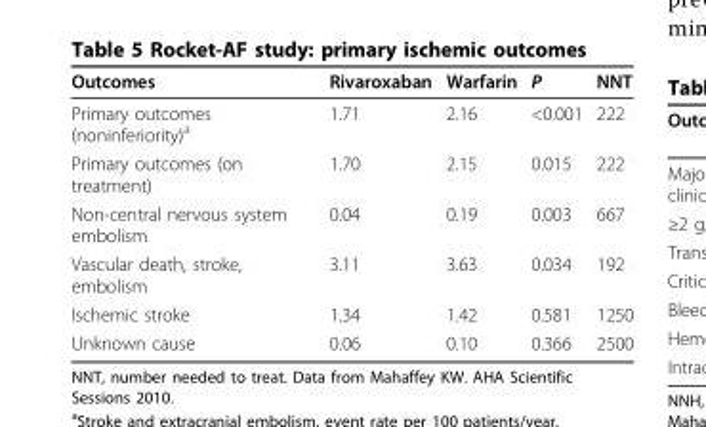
<table><thead><tr><td>Outcomes</td><td>Rivaroxaban</td><td>Warfarin</td><td>P</td><td>NNT</td></tr></thead><tbody><tr><td>Primary outcomes (noninferiority)<sup>a</sup></td><td>1.71</td><td>2.16</td><td>&lt;0.001</td><td>222</td></tr><tr><td>Primary outcomes (on treatment)</td><td>1.70</td><td>2.15</td><td>0.015</td><td>222</td></tr><tr><td>Non-central nervous system embolism</td><td>0.04</td><td>0.19</td><td>0.003</td><td>667</td></tr><tr><td>Vascular death, stroke, embolism</td><td>3.11</td><td>3.63</td><td>0.034</td><td>192</td></tr><tr><td>Ischemic stroke</td><td>1.34</td><td>1.42</td><td>0.581</td><td>1250</td></tr><tr><td>Unknown cause</td><td>0.06</td><td>0.10</td><td>0.366</td><td>2500</td></tr></tbody></table>